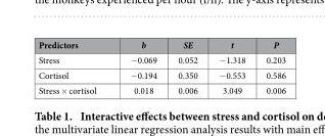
<table><thead><tr><td>Predictors</td><td>b</td><td>SE</td><td>t</td><td>P</td></tr></thead><tbody><tr><td>Stress</td><td>− 0.069</td><td>0.052</td><td>− 1.318</td><td>0.203</td></tr><tr><td>Cortisol</td><td>− 0.194</td><td>0.350</td><td>− 0.553</td><td>0.586</td></tr><tr><td>Stress × cortisol</td><td>0.018</td><td>0.006</td><td>3.049</td><td>0.006</td></tr></tbody></table>